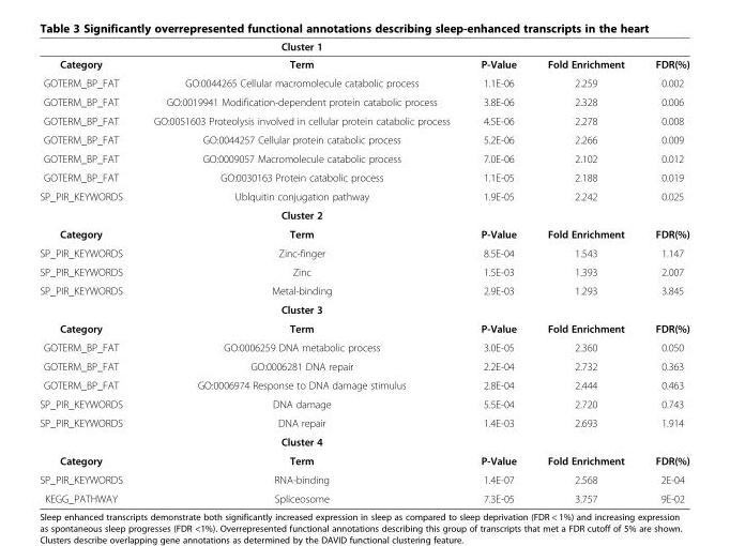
<table><thead><tr><td></td><td>Cluster 1</td><td></td><td></td><td></td></tr></thead><tbody><tr><td>Category</td><td>Term</td><td>P-Value</td><td>Fold Enrichment</td><td>FDR(%)</td></tr><tr><td>GOTERM_BP_FAT</td><td>GO:0044265 Cellular macromolecule catabolic process</td><td>1.1E-06</td><td>2.259</td><td>0.002</td></tr><tr><td>GOTERM_BP_FAT</td><td>GO:0019941 Modification-dependent protein catabolic process</td><td>3.8E-06</td><td>2.328</td><td>0.006</td></tr><tr><td>GOTERM_BP_FAT</td><td>GO:0051603 Proteolysis involved in cellular protein catabolic process</td><td>4.5E-06</td><td>2.278</td><td>0.008</td></tr><tr><td>GOTERM_BP_FAT</td><td>GO:0044257 Cellular protein catabolic process</td><td>5.2E-06</td><td>2.266</td><td>0.009</td></tr><tr><td>GOTERM_BP_FAT</td><td>GO:0009057 Macromolecule catabolic process</td><td>7.0E-06</td><td>2.102</td><td>0.012</td></tr><tr><td>GOTERM_BP_FAT</td><td>GO:0030163 Protein catabolic process</td><td>1.1E-05</td><td>2.188</td><td>0.019</td></tr><tr><td rowspan="2">SP_PIR_KEYWORDS</td><td>Ublquitin conjugation pathway</td><td>1.9E-05</td><td>2.242</td><td>0.025</td></tr><tr><td>Cluster 2</td><td></td><td></td><td></td></tr><tr><td>Category</td><td>Term</td><td>P-Value</td><td>Fold Enrichment</td><td>FDR(%)</td></tr><tr><td>SP_PIR_KEYWORDS</td><td>Zinc-finger</td><td>8.5E-04</td><td>1.543</td><td>1.147</td></tr><tr><td>SP_PIR_KEYWORDS</td><td>Zinc</td><td>1.5E-03</td><td>1.393</td><td>2.007</td></tr><tr><td rowspan="2">SP_PIR_KEYWORDS</td><td>Metal-binding</td><td>2.9E-03</td><td>1.293</td><td>3.845</td></tr><tr><td>Cluster 3</td><td></td><td></td><td></td></tr><tr><td>Category</td><td>Term</td><td>P-Value</td><td>Fold Enrichment</td><td>FDR(%)</td></tr><tr><td>GOTERM_BP_FAT</td><td>GO:0006259 DNA metabolic process</td><td>3.0E-05</td><td>2.360</td><td>0.050</td></tr><tr><td>GOTERM_BP_FAT</td><td>GO:0006281 DNA repair</td><td>2.2E-04</td><td>2.732</td><td>0.363</td></tr><tr><td>GOTERM_BP_FAT</td><td>GO:0006974 Response to DNA damage stimulus</td><td>2.8E-04</td><td>2.444</td><td>0.463</td></tr><tr><td>SP_PIR_KEYWORDS</td><td>DNA damage</td><td>5.5E-04</td><td>2.720</td><td>0.743</td></tr><tr><td rowspan="2">SP_PIR_KEYWORDS</td><td>DNA repair</td><td>1.4E-03</td><td>2.693</td><td>1.914</td></tr><tr><td>Cluster 4</td><td></td><td></td><td></td></tr><tr><td>Category</td><td>Term</td><td>P-Value</td><td>Fold Enrichment</td><td>FDR(%)</td></tr><tr><td>SP_PIR_KEYWORDS</td><td>RNA-binding</td><td>1.4E-07</td><td>2.568</td><td>2E-04</td></tr><tr><td>KEGG_PATHWAY</td><td>Spliceosome</td><td>7.3E-05</td><td>3.757</td><td>9E-02</td></tr></tbody></table>